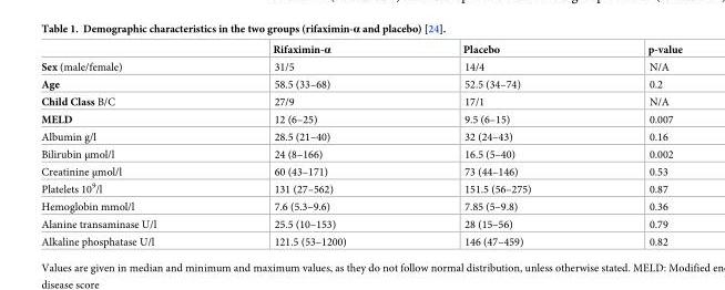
<table><thead><tr><td></td><td>Rifaximin-α</td><td>Placebo</td><td>p-value</td></tr></thead><tbody><tr><td>Sex (male/female)</td><td>31/5</td><td>14/4</td><td>N/A</td></tr><tr><td>Age</td><td>58.5 (33–68)</td><td>52.5 (34–74)</td><td>0.2</td></tr><tr><td>Child Class B/C</td><td>27/9</td><td>17/1</td><td>N/A</td></tr><tr><td>MELD</td><td>12 (6–25)</td><td>9.5 (6–15)</td><td>0.007</td></tr><tr><td>Albumin g/l</td><td>28.5 (21–40)</td><td>32 (24–43)</td><td>0.16</td></tr><tr><td>Bilirubin μmol/l</td><td>24 (8–166)</td><td>16.5 (5–40)</td><td>0.002</td></tr><tr><td>Creatinine μmol/l</td><td>60 (43–171)</td><td>73 (44–146)</td><td>0.53</td></tr><tr><td>Platelets 10<sup>9</sup>/l</td><td>131 (27–562)</td><td>151.5 (56–275)</td><td>0.87</td></tr><tr><td>Hemoglobin mmol/l</td><td>7.6 (5.3–9.6)</td><td>7.85 (5–9.8)</td><td>0.36</td></tr><tr><td>Alanine transaminase U/l</td><td>25.5 (10–153)</td><td>28 (15–56)</td><td>0.79</td></tr><tr><td>Alkaline phosphatase U/l</td><td>121.5 (53–1200)</td><td>146 (47–459)</td><td>0.82</td></tr></tbody></table>